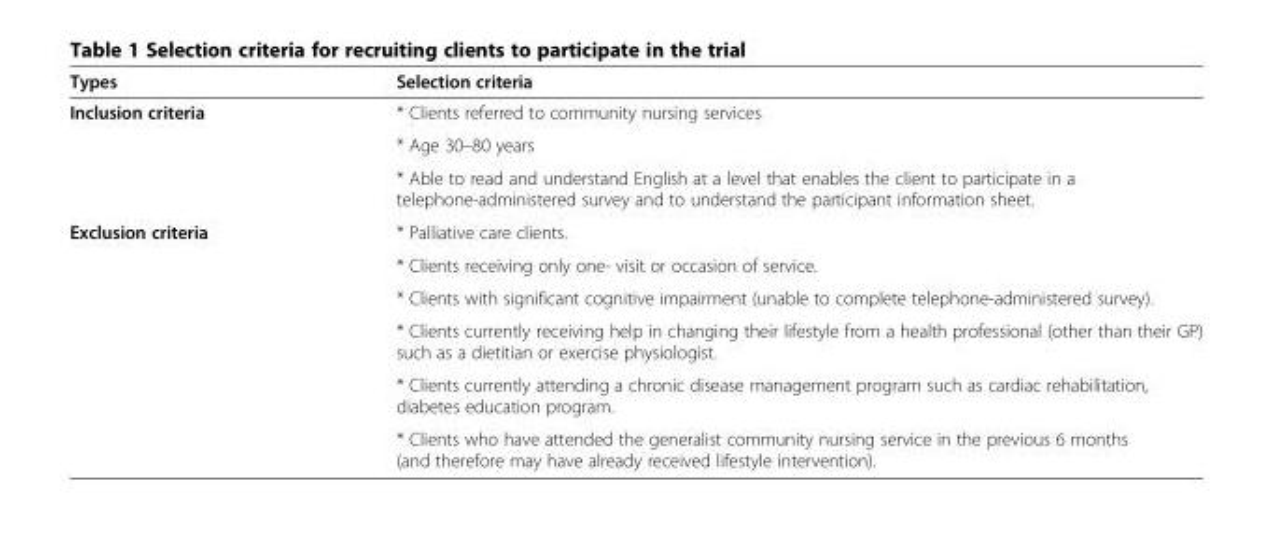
<table><thead><tr><td>Types</td><td>Selection criteria</td></tr></thead><tbody><tr><td rowspan="3">Inclusion criteria</td><td>* Clients referred to community nursing services</td></tr><tr><td>* Age 30–80 years</td></tr><tr><td>* Able to read and understand English at a level that enables the client to participate in a telephone-administered survey and to understand the participant information sheet.</td></tr><tr><td rowspan="6">Exclusion criteria</td><td>* Palliative care clients.</td></tr><tr><td>* Clients receiving only one- visit or occasion of service.</td></tr><tr><td>* Clients with significant cognitive impairment (unable to complete telephone-administered survey).</td></tr><tr><td>* Clients currently receiving help in changing their lifestyle from a health professional (other than their GP) such as a dietitian or exercise physiologist.</td></tr><tr><td>* Clients currently attending a chronic disease management program such as cardiac rehabilitation, diabetes education program.</td></tr><tr><td>* Clients who have attended the generalist community nursing service in the previous 6 months (and therefore may have already received lifestyle intervention).</td></tr></tbody></table>